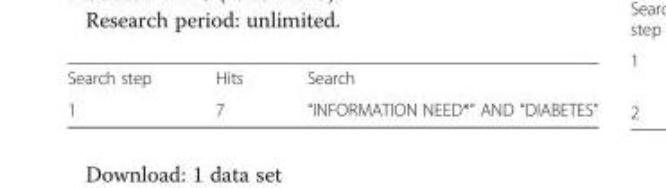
<table><tbody><tr><td>Search step</td><td>Hits</td><td>Search</td></tr><tr><td>1</td><td>7</td><td>“INFORMATION NEED*” AND “DIABETES”</td></tr></tbody></table>